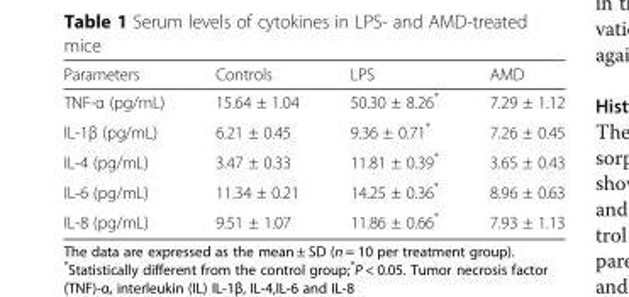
<table><thead><tr><td>Parameters</td><td>Controls</td><td>LPS</td><td>AMD</td></tr></thead><tbody><tr><td>TNF-α (pg/mL)</td><td>15.64 ± 1.04</td><td>50.30 ± 8.26*</td><td>7.29 ± 1.12</td></tr><tr><td>IL-1β (pg/mL)</td><td>6.21 ± 0.45</td><td>9.36 ± 0.71*</td><td>7.26 ± 0.45</td></tr><tr><td>IL-4 (pg/mL)</td><td>3.47 ± 0.33</td><td>11.81 ± 0.39*</td><td>3.65 ± 0.43</td></tr><tr><td>IL-6 (pg/mL)</td><td>11.34 ± 0.21</td><td>14.25 ± 0.36*</td><td>8.96 ± 0.63</td></tr><tr><td>IL-8 (pg/mL)</td><td>9.51 ± 1.07</td><td>11.86 ± 0.66*</td><td>7.93 ± 1.13</td></tr></tbody></table>